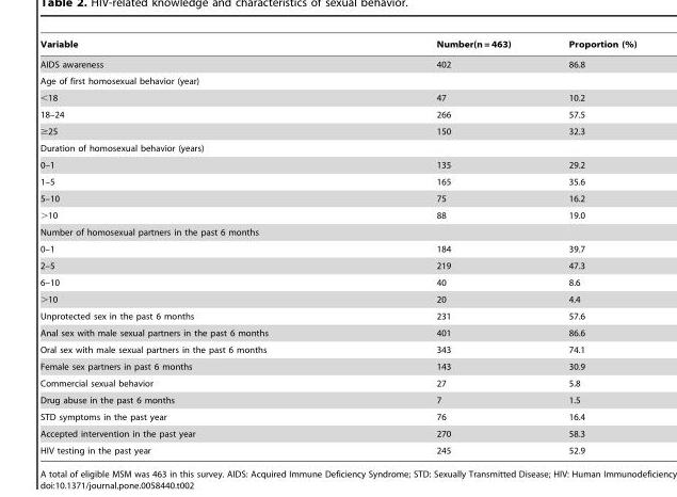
<table><thead><tr><td>Variable</td><td>Number(n = 463)</td><td>Proportion (%)</td></tr></thead><tbody><tr><td>AIDS awareness</td><td>402</td><td>86.8</td></tr><tr><td colspan="3">Age of first homosexual behavior (year)</td></tr><tr><td>&lt;18</td><td>47</td><td>10.2</td></tr><tr><td>18–24</td><td>266</td><td>57.5</td></tr><tr><td>≥25</td><td>150</td><td>32.3</td></tr><tr><td colspan="3">Duration of homosexual behavior (years)</td></tr><tr><td>0–1</td><td>135</td><td>29.2</td></tr><tr><td>1–5</td><td>165</td><td>35.6</td></tr><tr><td>5–10</td><td>75</td><td>16.2</td></tr><tr><td>&gt;10</td><td>88</td><td>19.0</td></tr><tr><td colspan="3">Number of homosexual partners in the past 6 months</td></tr><tr><td>0–1</td><td>184</td><td>39.7</td></tr><tr><td>2–5</td><td>219</td><td>47.3</td></tr><tr><td>6–10</td><td>40</td><td>8.6</td></tr><tr><td>&gt;10</td><td>20</td><td>4.4</td></tr><tr><td>Unprotected sex in the past 6 months</td><td>231</td><td>57.6</td></tr><tr><td>Anal sex with male sexual partners in the past 6 months</td><td>401</td><td>86.6</td></tr><tr><td>Oral sex with male sexual partners in the past 6 months</td><td>343</td><td>74.1</td></tr><tr><td>Female sex partners in past 6 months</td><td>143</td><td>30.9</td></tr><tr><td>Commercial sexual behavior</td><td>27</td><td>5.8</td></tr><tr><td>Drug abuse in the past 6 months</td><td>7</td><td>1.5</td></tr><tr><td>STD symptoms in the past year</td><td>76</td><td>16.4</td></tr><tr><td>Accepted intervention in the past year</td><td>270</td><td>58.3</td></tr><tr><td>HIV testing in the past year</td><td>245</td><td>52.9</td></tr></tbody></table>